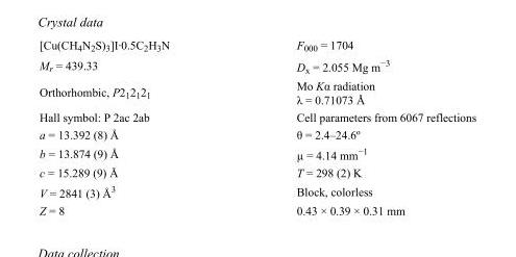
<table><tbody><tr><td>[Cu(CH<sub>4</sub>N<sub>2</sub>S)<sub>3</sub>]I·0.5C<sub>2</sub>H<sub>3</sub>N</td><td>F<sub>000</sub> = 1704</td></tr><tr><td>M<sub>r</sub> = 439.33</td><td>D<sub>x</sub> = 2.055 Mg m<sup>−3</sup></td></tr><tr><td>Orthorhombic, P2<sub>1</sub>2<sub>1</sub>2<sub>1</sub></td><td>Mo Kα radiation λ = 0.71073 Å</td></tr><tr><td>Hall symbol: P 2ac 2ab</td><td>Cell parameters from 6067 reflections</td></tr><tr><td>a = 13.392 (8) Å</td><td>θ = 2.4–24.6º</td></tr><tr><td>b = 13.874 (9) Å</td><td>µ = 4.14 mm<sup>−1</sup></td></tr><tr><td>c = 15.289 (9) Å</td><td>T = 298 (2) K</td></tr><tr><td>V = 2841 (3) Å<sup>3</sup></td><td>Block, colorless</td></tr><tr><td>Z = 8</td><td>0.43 × 0.39 × 0.31 mm</td></tr></tbody></table>